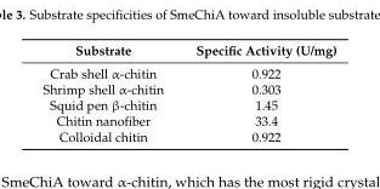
<table><thead><tr><td>Substrate</td><td>Specific Activity (U/mg)</td></tr></thead><tbody><tr><td>Crab shell α-chitin</td><td>0.922</td></tr><tr><td>Shrimp shell α-chitin</td><td>0.303</td></tr><tr><td>Squid pen β-chitin</td><td>1.45</td></tr><tr><td>Chitin nanofiber</td><td>33.4</td></tr><tr><td>Colloidal chitin</td><td>0.922</td></tr></tbody></table>